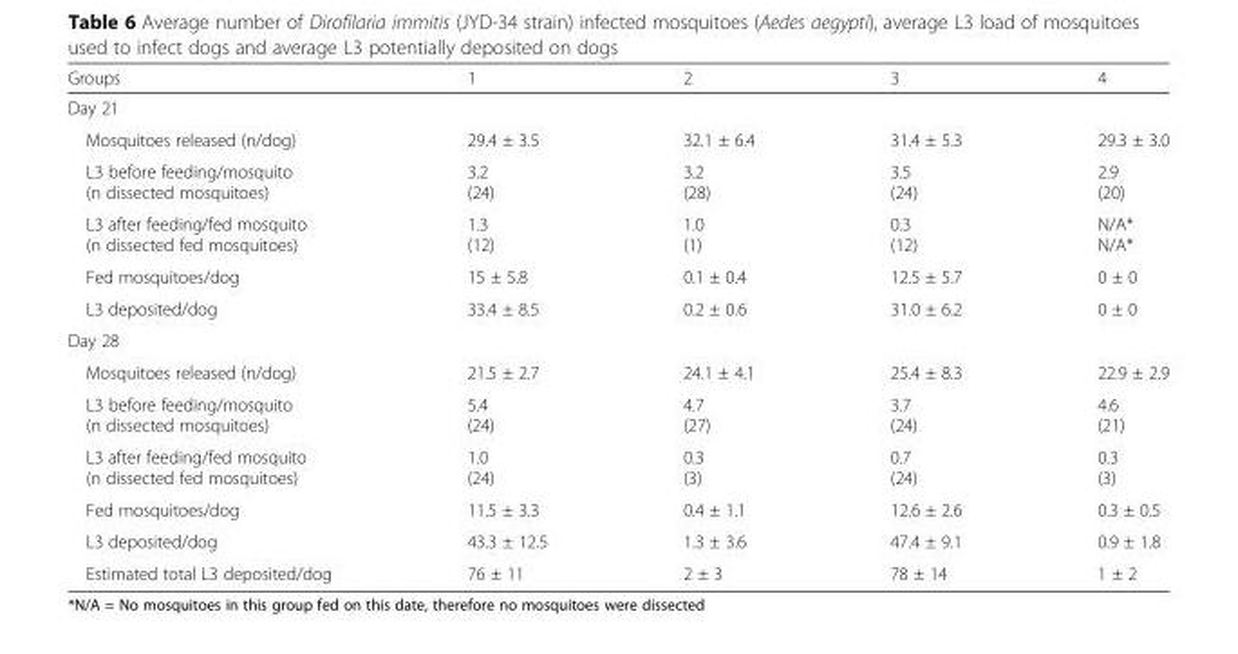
<table><thead><tr><td>Groups</td><td>1</td><td>2</td><td>3</td><td>4</td></tr></thead><tbody><tr><td colspan="5">Day 21</td></tr><tr><td>Mosquitoes released (n/dog)</td><td>29.4 ± 3.5</td><td>32.1 ± 6.4</td><td>31.4 ± 5.3</td><td>29.3 ± 3.0</td></tr><tr><td>L3 before feeding/mosquito (n dissected mosquitoes)</td><td>3.2 (24)</td><td>3.2 (28)</td><td>3.5 (24)</td><td>2.9 (20)</td></tr><tr><td>L3 after feeding/fed mosquito (n dissected fed mosquitoes)</td><td>1.3 (12)</td><td>1.0 (1)</td><td>0.3 (12)</td><td>N/A* N/A*</td></tr><tr><td>Fed mosquitoes/dog</td><td>15 ± 5.8</td><td>0.1 ± 0.4</td><td>12.5 ± 5.7</td><td>0 ± 0</td></tr><tr><td>L3 deposited/dog</td><td>33.4 ± 8.5</td><td>0.2 ± 0.6</td><td>31.0 ± 6.2</td><td>0 ± 0</td></tr><tr><td colspan="5">Day 28</td></tr><tr><td>Mosquitoes released (n/dog)</td><td>21.5 ± 2.7</td><td>24.1 ± 4.1</td><td>25.4 ± 8.3</td><td>22.9 ± 2.9</td></tr><tr><td>L3 before feeding/mosquito (n dissected mosquitoes)</td><td>5.4 (24)</td><td>4.7 (27)</td><td>3.7 (24)</td><td>4.6 (21)</td></tr><tr><td>L3 after feeding/fed mosquito (n dissected fed mosquitoes)</td><td>1.0 (24)</td><td>0.3 (3)</td><td>0.7 (24)</td><td>0.3 (3)</td></tr><tr><td>Fed mosquitoes/dog</td><td>11.5 ± 3.3</td><td>0.4 ± 1.1</td><td>12.6 ± 2.6</td><td>0.3 ± 0.5</td></tr><tr><td>L3 deposited/dog</td><td>43.3 ± 12.5</td><td>1.3 ± 3.6</td><td>47.4 ± 9.1</td><td>0.9 ± 1.8</td></tr><tr><td>Estimated total L3 deposited/dog</td><td>76 ± 11</td><td>2 ± 3</td><td>78 ± 14</td><td>1 ± 2</td></tr></tbody></table>